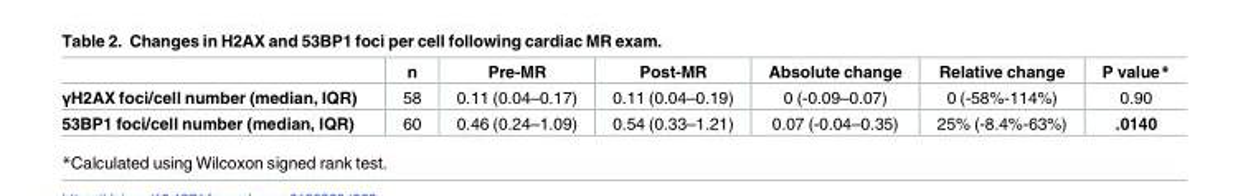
<table><thead><tr><td></td><td>n</td><td>Pre-MR</td><td>Post-MR</td><td>Absolute change</td><td>Relative change</td><td>P value*</td></tr></thead><tbody><tr><td>γH2AX foci/cell number (median, IQR)</td><td>58</td><td>0.11 (0.04–0.17)</td><td>0.11 (0.04–0.19)</td><td>0 (-0.09–0.07)</td><td>0 (-58%-114%)</td><td>0.90</td></tr><tr><td>53BP1 foci/cell number (median, IQR)</td><td>60</td><td>0.46 (0.24–1.09)</td><td>0.54 (0.33–1.21)</td><td>0.07 (-0.04–0.35)</td><td>25% (-8.4%-63%)</td><td>.0140</td></tr></tbody></table>